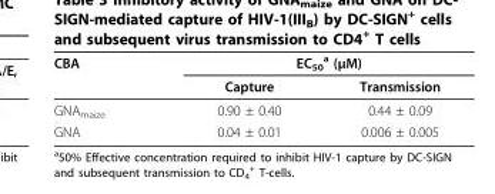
<table><thead><tr><td rowspan="2">CBA</td><td colspan="2">EC<sub>50</sub> <sup>a</sup> (μM)</td></tr><tr><td>Capture</td><td>Transmission</td></tr></thead><tbody><tr><td>GNA<sub>maize</sub></td><td>0.90 ± 0.40</td><td>0.44 ± 0.09</td></tr><tr><td>GNA</td><td>0.04 ± 0.01</td><td>0.006 ± 0.005</td></tr></tbody></table>